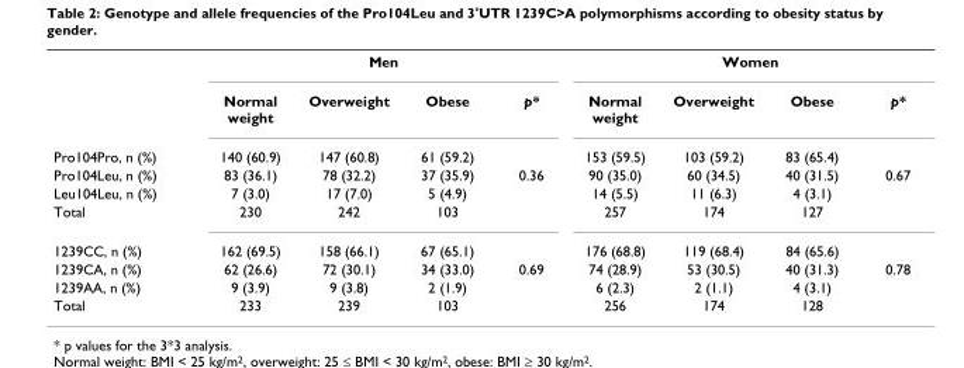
<table><thead><tr><td rowspan="2"></td><td colspan="4">Men</td><td colspan="4">Women</td></tr><tr><td>Normal weight</td><td>Overweight</td><td>Obese</td><td>p*</td><td>Normal weight</td><td>Overweight</td><td>Obese</td><td>p*</td></tr></thead><tbody><tr><td>Pro104Pro, n (%)</td><td>140 (60.9)</td><td>147 (60.8)</td><td>61 (59.2)</td><td></td><td>153 (59.5)</td><td>103 (59.2)</td><td>83 (65.4)</td><td></td></tr><tr><td>Pro104Leu, n (%)</td><td>83 (36.1)</td><td>78 (32.2)</td><td>37 (35.9)</td><td>0.36</td><td>90 (35.0)</td><td>60 (34.5)</td><td>40 (31.5)</td><td>0.67</td></tr><tr><td>Leu104Leu, n (%)</td><td>7 (3.0)</td><td>17 (7.0)</td><td>5 (4.9)</td><td></td><td>14 (5.5)</td><td>11 (6.3)</td><td>4 (3.1)</td><td></td></tr><tr><td>Total</td><td>230</td><td>242</td><td>103</td><td></td><td>257</td><td>174</td><td>127</td><td></td></tr><tr><td>1239CC, n (%)</td><td>162 (69.5)</td><td>158 (66.1)</td><td>67 (65.1)</td><td></td><td>176 (68.8)</td><td>119 (68.4)</td><td>84 (65.6)</td><td></td></tr><tr><td>1239CA, n (%)</td><td>62 (26.6)</td><td>72 (30.1)</td><td>34 (33.0)</td><td>0.69</td><td>74 (28.9)</td><td>53 (30.5)</td><td>40 (31.3)</td><td>0.78</td></tr><tr><td>1239AA, n (%)</td><td>9 (3.9)</td><td>9 (3.8)</td><td>2 (1.9)</td><td></td><td>6 (2.3)</td><td>2 (1.1)</td><td>4 (3.1)</td><td></td></tr><tr><td>Total</td><td>233</td><td>239</td><td>103</td><td></td><td>256</td><td>174</td><td>128</td><td></td></tr></tbody></table>